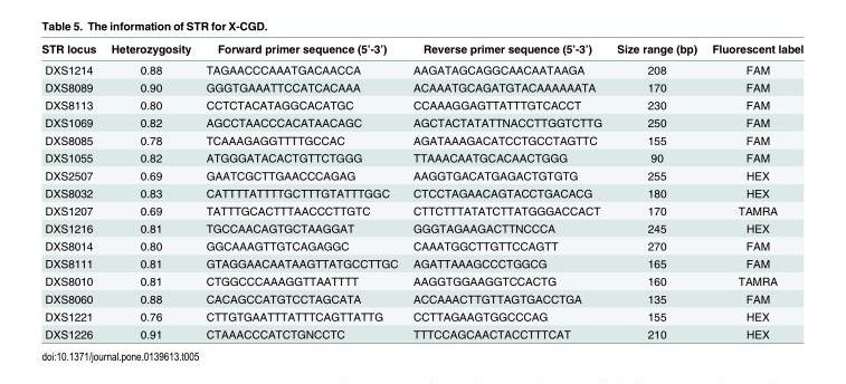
<table><thead><tr><td>STR locus</td><td>Heterozygosity</td><td>Forward primer sequence (5’-3’)</td><td>Reverse primer sequence (5’-3’)</td><td>Size range (bp)</td><td>Fluorescent label</td></tr></thead><tbody><tr><td>DXS1214</td><td>0.88</td><td>TAGAACCCAAATGACAACCA</td><td>AAGATAGCAGGCAACAATAAGA</td><td>208</td><td>FAM</td></tr><tr><td>DXS8089</td><td>0.90</td><td>GGGTGAAATTCCATCACAAA</td><td>ACAAATGCAGATGTACAAAAAATA</td><td>170</td><td>FAM</td></tr><tr><td>DXS8113</td><td>0.80</td><td>CCTCTACATAGGCACATGC</td><td>CCAAAGGAGTTATTTGTCACCT</td><td>230</td><td>FAM</td></tr><tr><td>DXS1069</td><td>0.82</td><td>AGCCTAACCCACATAACAGC</td><td>AGCTACTATATTNACCTTGGTCTTG</td><td>250</td><td>FAM</td></tr><tr><td>DXS8085</td><td>0.78</td><td>TCAAAGAGGTTTTGCCAC</td><td>AGATAAAGACATCCTGCCTAGTTC</td><td>155</td><td>FAM</td></tr><tr><td>DXS1055</td><td>0.82</td><td>ATGGGATACACTGTTCTGGG</td><td>TTAAACAATGCACAACTGGG</td><td>90</td><td>FAM</td></tr><tr><td>DXS2507</td><td>0.69</td><td>GAATCGCTTGAACCCAGAG</td><td>AAGGTGACATGAGACTGTGTG</td><td>255</td><td>HEX</td></tr><tr><td>DXS8032</td><td>0.83</td><td>CATTTTATTTTGCTTTGTATTTGGC</td><td>CTCCTAGAACAGTACCTGACACG</td><td>180</td><td>HEX</td></tr><tr><td>DXS1207</td><td>0.69</td><td>TATTTGCACTTTAACCCTTGTC</td><td>CTTCTTTATATCTTATGGGACCACT</td><td>170</td><td>TAMRA</td></tr><tr><td>DXS1216</td><td>0.81</td><td>TGCCAACAGTGCTAAGGAT</td><td>GGGTAGAAGACTTNCCCA</td><td>245</td><td>HEX</td></tr><tr><td>DXS8014</td><td>0.80</td><td>GGCAAAGTTGTCAGAGGC</td><td>CAAATGGCTTGTTCCAGTT</td><td>270</td><td>FAM</td></tr><tr><td>DXS8111</td><td>0.81</td><td>GTAGGAACAATAAGTTATGCCTTGC</td><td>AGATTAAAGCCCTGGCG</td><td>165</td><td>FAM</td></tr><tr><td>DXS8010</td><td>0.81</td><td>CTGGCCCAAAGGTTAATTTT</td><td>AAGGTGGAAGGTCCACTG</td><td>160</td><td>TAMRA</td></tr><tr><td>DXS8060</td><td>0.88</td><td>CACAGCCATGTCCTAGCATA</td><td>ACCAAACTTGTTAGTGACCTGA</td><td>135</td><td>FAM</td></tr><tr><td>DXS1221</td><td>0.76</td><td>CTTGTGAATTTATTTCAGTTATTG</td><td>CCTTAGAAGTGGCCCAG</td><td>155</td><td>HEX</td></tr><tr><td>DXS1226</td><td>0.91</td><td>CTAAACCCATCTGNCCTC</td><td>TTTCCAGCAACTACCTTTCAT</td><td>210</td><td>HEX</td></tr></tbody></table>